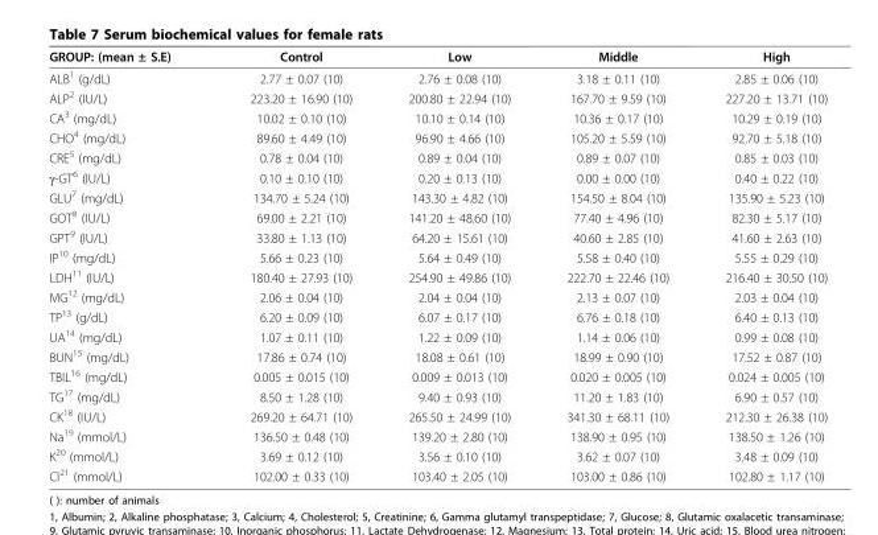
<table><thead><tr><td>GROUP: (mean ± S.E)</td><td>Control</td><td>Low</td><td>Middle</td><td>High</td></tr></thead><tbody><tr><td>ALB<sup>1</sup> (g/dL)</td><td>2.77 ± 0.07 (10)</td><td>2.76 ± 0.08 (10)</td><td>3.18 ± 0.11 (10)</td><td>2.85 ± 0.06 (10)</td></tr><tr><td>ALP<sup>2</sup> (IU/L)</td><td>223.20 ± 16.90 (10)</td><td>200.80 ± 22.94 (10)</td><td>167.70 ± 9.59 (10)</td><td>227.20 ± 13.71 (10)</td></tr><tr><td>CA<sup>3</sup> (mg/dL)</td><td>10.02 ± 0.10 (10)</td><td>10.10 ± 0.14 (10)</td><td>10.36 ± 0.17 (10)</td><td>10.29 ± 0.19 (10)</td></tr><tr><td>CHO<sup>4</sup> (mg/dL)</td><td>89.60 ± 4.49 (10)</td><td>96.90 ± 4.66 (10)</td><td>105.20 ± 5.59 (10)</td><td>92.70 ± 5.18 (10)</td></tr><tr><td>CRE<sup>5</sup> (mg/dL)</td><td>0.78 ± 0.04 (10)</td><td>0.89 ± 0.04 (10)</td><td>0.89 ± 0.07 (10)</td><td>0.85 ± 0.03 (10)</td></tr><tr><td>γ-GT<sup>6</sup> (IU/L)</td><td>0.10 ± 0.10 (10)</td><td>0.20 ± 0.13 (10)</td><td>0.00 ± 0.00 (10)</td><td>0.40 ± 0.22 (10)</td></tr><tr><td>GLU<sup>7</sup> (mg/dL)</td><td>134.70 ± 5.24 (10)</td><td>143.30 ± 4.82 (10)</td><td>154.50 ± 8.04 (10)</td><td>135.90 ± 5.23 (10)</td></tr><tr><td>GOT<sup>8</sup> (IU/L)</td><td>69.00 ± 2.21 (10)</td><td>141.20 ± 48.60 (10)</td><td>77.40 ± 4.96 (10)</td><td>82.30 ± 5.17 (10)</td></tr><tr><td>GPT<sup>9</sup> (IU/L)</td><td>33.80 ± 1.13 (10)</td><td>64.20 ± 15.61 (10)</td><td>40.60 ± 2.85 (10)</td><td>41.60 ± 2.63 (10)</td></tr><tr><td>IP<sup>10</sup> (mg/dL)</td><td>5.66 ± 0.23 (10)</td><td>5.64 ± 0.49 (10)</td><td>5.58 ± 0.40 (10)</td><td>5.55 ± 0.29 (10)</td></tr><tr><td>LDH<sup>11</sup> (IU/L)</td><td>180.40 ± 27.93 (10)</td><td>254.90 ± 49.86 (10)</td><td>222.70 ± 22.46 (10)</td><td>216.40 ± 30.50 (10)</td></tr><tr><td>MG<sup>12</sup> (mg/dL)</td><td>2.06 ± 0.04 (10)</td><td>2.04 ± 0.04 (10)</td><td>2.13 ± 0.07 (10)</td><td>2.03 ± 0.04 (10)</td></tr><tr><td>TP<sup>13</sup> (g/dL)</td><td>6.20 ± 0.09 (10)</td><td>6.07 ± 0.17 (10)</td><td>6.76 ± 0.18 (10)</td><td>6.40 ± 0.13 (10)</td></tr><tr><td>UA<sup>14</sup> (mg/dL)</td><td>1.07 ± 0.11 (10)</td><td>1.22 ± 0.09 (10)</td><td>1.14 ± 0.06 (10)</td><td>0.99 ± 0.08 (10)</td></tr><tr><td>BUN<sup>15</sup> (mg/dL)</td><td>17.86 ± 0.74 (10)</td><td>18.08 ± 0.61 (10)</td><td>18.99 ± 0.90 (10)</td><td>17.52 ± 0.87 (10)</td></tr><tr><td>TBIL<sup>16</sup> (mg/dL)</td><td>0.005 ± 0.015 (10)</td><td>0.009 ± 0.013 (10)</td><td>0.020 ± 0.005 (10)</td><td>0.024 ± 0.005 (10)</td></tr><tr><td>TG<sup>17</sup> (mg/dL)</td><td>8.50 ± 1.28 (10)</td><td>9.40 ± 0.93 (10)</td><td>11.20 ± 1.83 (10)</td><td>6.90 ± 0.57 (10)</td></tr><tr><td>CK<sup>18</sup> (IU/L)</td><td>269.20 ± 64.71 (10)</td><td>265.50 ± 24.99 (10)</td><td>341.30 ± 68.11 (10)</td><td>212.30 ± 26.38 (10)</td></tr><tr><td>Na<sup>19</sup> (mmol/L)</td><td>136.50 ± 0.48 (10)</td><td>139.20 ± 2.80 (10)</td><td>138.90 ± 0.95 (10)</td><td>138.50 ± 1.26 (10)</td></tr><tr><td>K<sup>20</sup> (mmol/L)</td><td>3.69 ± 0.12 (10)</td><td>3.56 ± 0.10 (10)</td><td>3.62 ± 0.07 (10)</td><td>3.48 ± 0.09 (10)</td></tr><tr><td>Cl<sup>21</sup> (mmol/L)</td><td>102.00 ± 0.33 (10)</td><td>103.40 ± 2.05 (10)</td><td>103.00 ± 0.86 (10)</td><td>102.80 ± 1.17 (10)</td></tr></tbody></table>